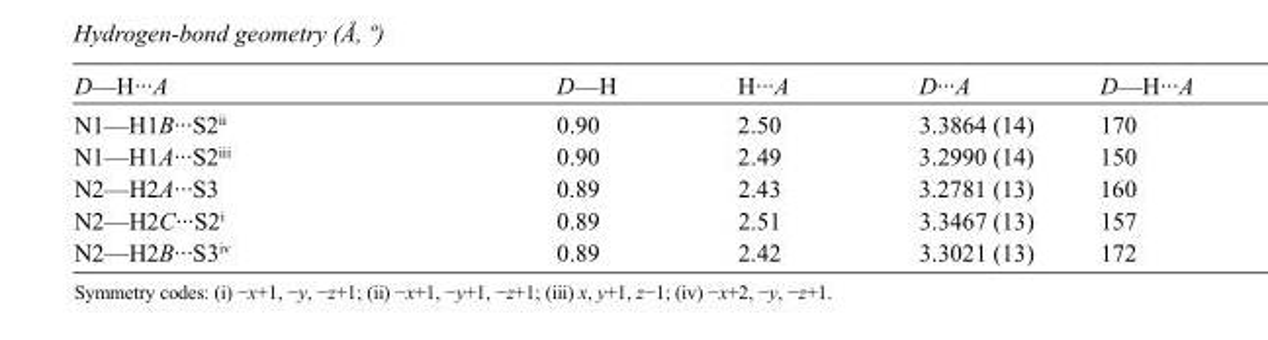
<table><tbody><tr><td>D—H···A</td><td>D—H</td><td>H···A</td><td>D···A</td><td>D—H···A</td></tr><tr><td>N1—H1B···S2<sup>ii</sup></td><td>0.90</td><td>2.50</td><td>3.3864 (14)</td><td>170</td></tr><tr><td>N1—H1A···S2<sup>iii</sup></td><td>0.90</td><td>2.49</td><td>3.2990 (14)</td><td>150</td></tr><tr><td>N2—H2A···S3</td><td>0.89</td><td>2.43</td><td>3.2781 (13)</td><td>160</td></tr><tr><td>N2—H2C···S2<sup>i</sup></td><td>0.89</td><td>2.51</td><td>3.3467 (13)</td><td>157</td></tr><tr><td>N2—H2B···S3<sup>iv</sup></td><td>0.89</td><td>2.42</td><td>3.3021 (13)</td><td>172</td></tr></tbody></table>